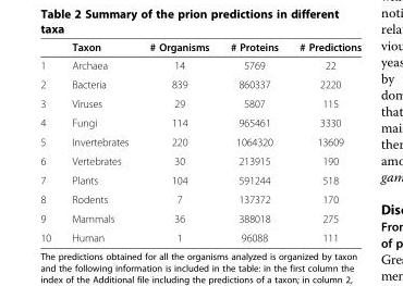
<table><thead><tr><td></td><td>Taxon</td><td># Organisms</td><td># Proteins</td><td># Predictions</td></tr></thead><tbody><tr><td>1</td><td>Archaea</td><td>14</td><td>5769</td><td>22</td></tr><tr><td>2</td><td>Bacteria</td><td>839</td><td>860337</td><td>2220</td></tr><tr><td>3</td><td>Viruses</td><td>29</td><td>5807</td><td>115</td></tr><tr><td>4</td><td>Fungi</td><td>114</td><td>965461</td><td>3330</td></tr><tr><td>5</td><td>Invertebrates</td><td>220</td><td>1064320</td><td>13609</td></tr><tr><td>6</td><td>Vertebrates</td><td>30</td><td>213915</td><td>190</td></tr><tr><td>7</td><td>Plants</td><td>104</td><td>591244</td><td>518</td></tr><tr><td>8</td><td>Rodents</td><td>7</td><td>137372</td><td>170</td></tr><tr><td>9</td><td>Mammals</td><td>36</td><td>388018</td><td>275</td></tr><tr><td>10</td><td>Human</td><td>1</td><td>96088</td><td>111</td></tr></tbody></table>